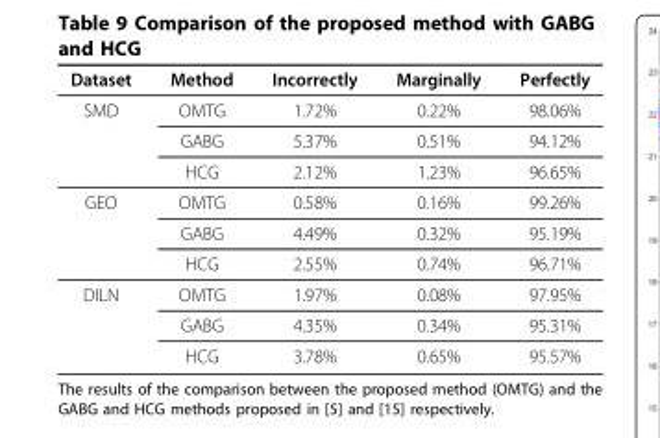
<table><thead><tr><td>Dataset</td><td>Method</td><td>Incorrectly</td><td>Marginally</td><td>Perfectly</td></tr></thead><tbody><tr><td rowspan="3">SMD</td><td>OMTG</td><td>1.72%</td><td>0.22%</td><td>98.06%</td></tr><tr><td>GABG</td><td>5.37%</td><td>0.51%</td><td>94.12%</td></tr><tr><td>HCG</td><td>2.12%</td><td>1.23%</td><td>96.65%</td></tr><tr><td rowspan="3">GEO</td><td>OMTG</td><td>0.58%</td><td>0.16%</td><td>99.26%</td></tr><tr><td>GABG</td><td>4.49%</td><td>0.32%</td><td>95.19%</td></tr><tr><td>HCG</td><td>2.55%</td><td>0.74%</td><td>96.71%</td></tr><tr><td rowspan="3">DILN</td><td>OMTG</td><td>1.97%</td><td>0.08%</td><td>97.95%</td></tr><tr><td>GABG</td><td>4.35%</td><td>0.34%</td><td>95.31%</td></tr><tr><td>HCG</td><td>3.78%</td><td>0.65%</td><td>95.57%</td></tr></tbody></table>